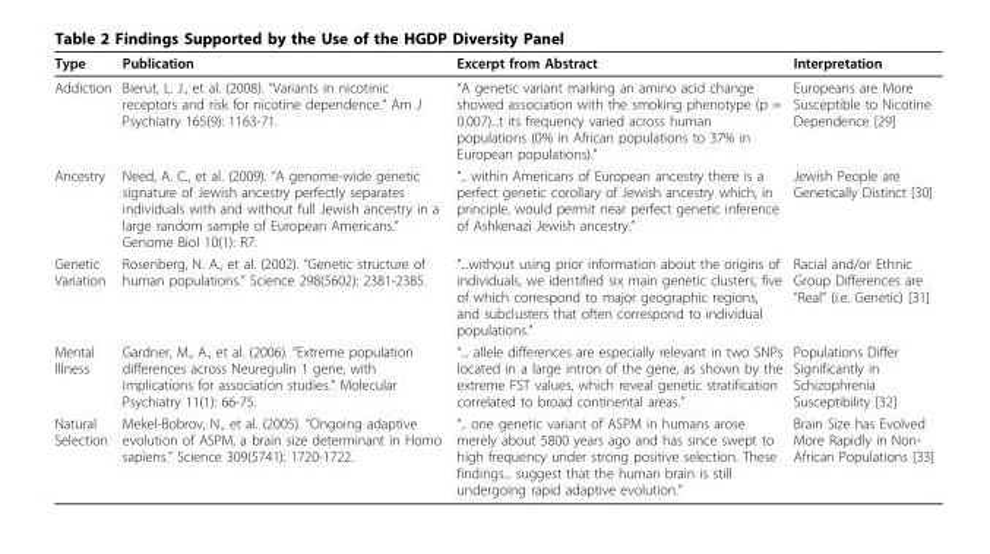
<table><thead><tr><td>Type</td><td>Publication</td><td>Excerpt from Abstract</td><td>Interpretation</td></tr></thead><tbody><tr><td>Addiction</td><td>Bierut, L. J., et al. (2008). “Variants in nicotinic receptors and risk for nicotine dependence.” Am J Psychiatry 165(9): 1163-71.</td><td>“A genetic variant marking an amino acid change showed association with the smoking phenotype (p = 0.007)...t its frequency varied across human populations (0% in African populations to 37% in European populations).”</td><td>Europeans are More Susceptible to Nicotine Dependence [29]</td></tr><tr><td>Ancestry</td><td>Need, A. C., et al. (2009). “A genome-wide genetic signature of Jewish ancestry perfectly separates individuals with and without full Jewish ancestry in a large random sample of European Americans.” Genome Biol 10(1): R7.</td><td>“.. within Americans of European ancestry there is a perfect genetic corollary of Jewish ancestry which, in principle, would permit near perfect genetic inference of Ashkenazi Jewish ancestry.”</td><td>Jewish People are Genetically Distinct [30]</td></tr><tr><td>Genetic Variation</td><td>Rosenberg, N. A., et al. (2002). “Genetic structure of human populations.” Science 298(5602): 2381-2385.</td><td>“...without using prior information about the origins of individuals, we identified six main genetic clusters, five of which correspond to major geographic regions, and subclusters that often correspond to individual populations.”</td><td>Racial and/or Ethnic Group Differences are “Real” (i.e. Genetic) [31]</td></tr><tr><td>Mental Illness</td><td>Gardner, M., A., et al. (2006). “Extreme population differences across Neuregulin 1 gene, with implications for association studies.” Molecular Psychiatry 11(1): 66-75.</td><td>“... allele differences are especially relevant in two SNPs located in a large intron of the gene, as shown by the extreme FST values, which reveal genetic stratification correlated to broad continental areas.”</td><td>Populations Differ Significantly in Schizophrenia Susceptibility [32]</td></tr><tr><td>Natural Selection</td><td>Mekel-Bobrov, N., et al. (2005). “Ongoing adaptive evolution of ASPM, a brain size determinant in Homo sapiens.” Science 309(5741): 1720-1722.</td><td>“.. one genetic variant of ASPM in humans arose merely about 5800 years ago and has since swept to high frequency under strong positive selection. These findings... suggest that the human brain is still undergoing rapid adaptive evolution.”</td><td>Brain Size has Evolved More Rapidly in Non- African Populations [33]</td></tr></tbody></table>